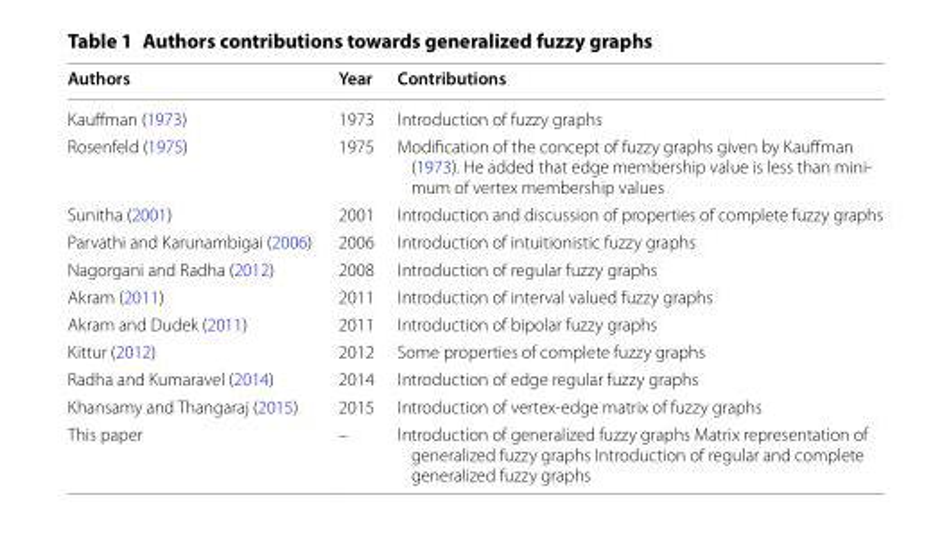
<table><thead><tr><td>Authors</td><td>Year</td><td>Contributions</td></tr></thead><tbody><tr><td>Kauffman (1973)</td><td>1973</td><td>Introduction of fuzzy graphs</td></tr><tr><td>Rosenfeld (1975)</td><td>1975</td><td>Modification of the concept of fuzzy graphs given by Kauffman (1973). He added that edge membership value is less than mini- mum of vertex membership values</td></tr><tr><td>Sunitha (2001)</td><td>2001</td><td>Introduction and discussion of properties of complete fuzzy graphs</td></tr><tr><td>Parvathi and Karunambigai (2006)</td><td>2006</td><td>Introduction of intuitionistic fuzzy graphs</td></tr><tr><td>Nagorgani and Radha (2012)</td><td>2008</td><td>Introduction of regular fuzzy graphs</td></tr><tr><td>Akram (2011)</td><td>2011</td><td>Introduction of interval valued fuzzy graphs</td></tr><tr><td>Akram and Dudek (2011)</td><td>2011</td><td>Introduction of bipolar fuzzy graphs</td></tr><tr><td>Kittur (2012)</td><td>2012</td><td>Some properties of complete fuzzy graphs</td></tr><tr><td>Radha and Kumaravel (2014)</td><td>2014</td><td>Introduction of edge regular fuzzy graphs</td></tr><tr><td>Khansamy and Thangaraj (2015)</td><td>2015</td><td>Introduction of vertex-edge matrix of fuzzy graphs</td></tr><tr><td>This paper</td><td>–</td><td>Introduction of generalized fuzzy graphs Matrix representation of generalized fuzzy graphs Introduction of regular and complete generalized fuzzy graphs</td></tr></tbody></table>